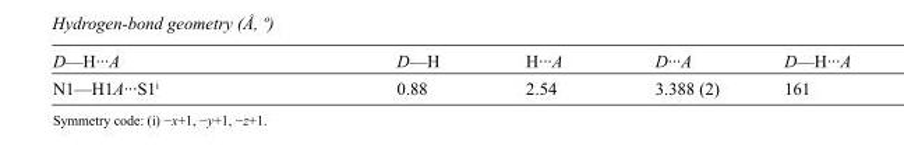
<table><tbody><tr><td>D—H···A</td><td>D—H</td><td>H···A</td><td>D···A</td><td>D—H···A</td></tr><tr><td>N1—H1A···S1<sup>i</sup></td><td>0.88</td><td>2.54</td><td>3.388 (2)</td><td>161</td></tr></tbody></table>